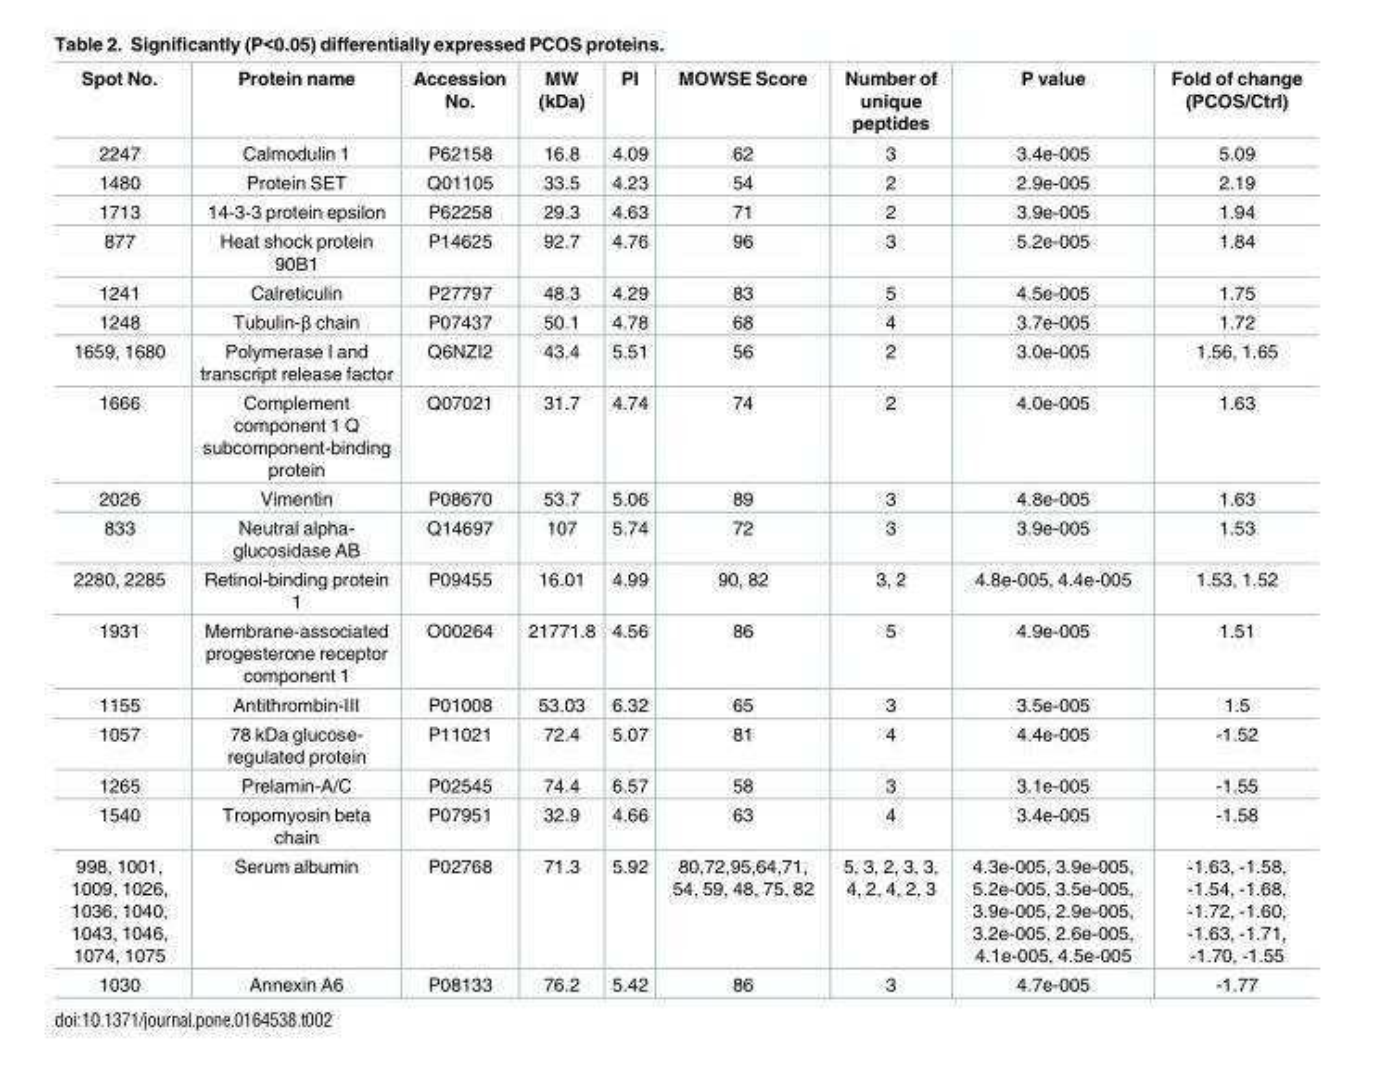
<table><thead><tr><td>Spot No.</td><td>Protein name</td><td>Accession No.</td><td>MW (kDa)</td><td>PI</td><td>MOWSE Score</td><td>Number of unique peptides</td><td>P value</td><td>Fold of change (PCOS/Ctrl)</td></tr></thead><tbody><tr><td>2247</td><td>Calmodulin 1</td><td>P62158</td><td>16.8</td><td>4.09</td><td>62</td><td>3</td><td>3.4e-005</td><td>5.09</td></tr><tr><td>1480</td><td>Protein SET</td><td>Q01105</td><td>33.5</td><td>4.23</td><td>54</td><td>2</td><td>2.9e-005</td><td>2.19</td></tr><tr><td>1713</td><td>14-3-3 protein epsilon</td><td>P62258</td><td>29.3</td><td>4.63</td><td>71</td><td>2</td><td>3.9e-005</td><td>1.94</td></tr><tr><td>877</td><td>Heat shock protein 90B1</td><td>P14625</td><td>92.7</td><td>4.76</td><td>96</td><td>3</td><td>5.2e-005</td><td>1.84</td></tr><tr><td>1241</td><td>Calreticulin</td><td>P27797</td><td>48.3</td><td>4.29</td><td>83</td><td>5</td><td>4.5e-005</td><td>1.75</td></tr><tr><td>1248</td><td>Tubulin-β chain</td><td>P07437</td><td>50.1</td><td>4.78</td><td>68</td><td>4</td><td>3.7e-005</td><td>1.72</td></tr><tr><td>1659, 1680</td><td>Polymerase I and transcript release factor</td><td>Q6NZI2</td><td>43.4</td><td>5.51</td><td>56</td><td>2</td><td>3.0e-005</td><td>1.56, 1.65</td></tr><tr><td>1666</td><td>Complement component 1 Q subcomponent-binding protein</td><td>Q07021</td><td>31.7</td><td>4.74</td><td>74</td><td>2</td><td>4.0e-005</td><td>1.63</td></tr><tr><td>2026</td><td>Vimentin</td><td>P08670</td><td>53.7</td><td>5.06</td><td>89</td><td>3</td><td>4.8e-005</td><td>1.63</td></tr><tr><td>833</td><td>Neutral alpha- glucosidase AB</td><td>Q14697</td><td>107</td><td>5.74</td><td>72</td><td>3</td><td>3.9e-005</td><td>1.53</td></tr><tr><td>2280, 2285</td><td>Retinol-binding protein 1</td><td>P09455</td><td>16.01</td><td>4.99</td><td>90, 82</td><td>3, 2</td><td>4.8e-005, 4.4e-005</td><td>1.53, 1.52</td></tr><tr><td>1931</td><td>Membrane-associated progesterone receptor component 1</td><td>O00264</td><td>21771.8</td><td>4.56</td><td>86</td><td>5</td><td>4.9e-005</td><td>1.51</td></tr><tr><td>1155</td><td>Antithrombin-III</td><td>P01008</td><td>53.03</td><td>6.32</td><td>65</td><td>3</td><td>3.5e-005</td><td>1.5</td></tr><tr><td>1057</td><td>78 kDa glucose- regulated protein</td><td>P11021</td><td>72.4</td><td>5.07</td><td>81</td><td>4</td><td>4.4e-005</td><td>-1.52</td></tr><tr><td>1265</td><td>Prelamin-A/C</td><td>P02545</td><td>74.4</td><td>6.57</td><td>58</td><td>3</td><td>3.1e-005</td><td>-1.55</td></tr><tr><td>1540</td><td>Tropomyosin beta chain</td><td>P07951</td><td>32.9</td><td>4.66</td><td>63</td><td>4</td><td>3.4e-005</td><td>-1.58</td></tr><tr><td>998, 1001, 1009, 1026, 1036, 1040, 1043, 1046, 1074, 1075</td><td>Serum albumin</td><td>P02768</td><td>71.3</td><td>5.92</td><td>80,72,95,64,71, 54, 59, 48, 75, 82</td><td>5, 3, 2, 3, 3, 4, 2, 4, 2, 3</td><td>4.3e-005, 3.9e-005, 5.2e-005, 3.5e-005, 3.9e-005, 2.9e-005, 3.2e-005, 2.6e-005, 4.1e-005, 4.5e-005</td><td>-1.63, -1.58, -1.54, -1.68, -1.72, -1.60, -1.63, -1.71, -1.70, -1.55</td></tr><tr><td>1030</td><td>Annexin A6</td><td>P08133</td><td>76.2</td><td>5.42</td><td>86</td><td>3</td><td>4.7e-005</td><td>-1.77</td></tr></tbody></table>